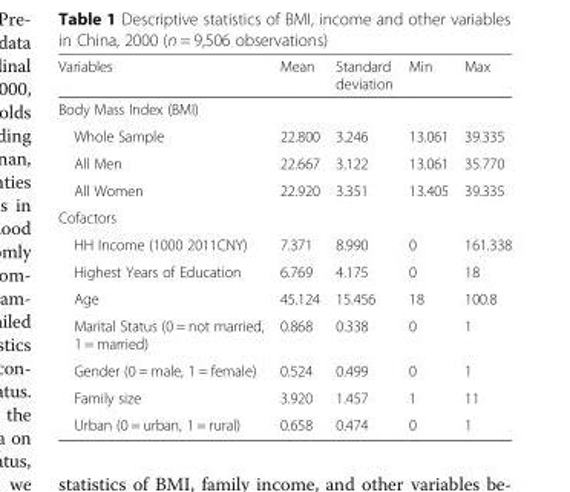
<table><thead><tr><td>Variables</td><td>Mean</td><td>Standard deviation</td><td>Min</td><td>Max</td></tr></thead><tbody><tr><td colspan="5">Body Mass Index (BMI)</td></tr><tr><td>Whole Sample</td><td>22.800</td><td>3.246</td><td>13.061</td><td>39.335</td></tr><tr><td>All Men</td><td>22.667</td><td>3.122</td><td>13.061</td><td>35.770</td></tr><tr><td>All Women</td><td>22.920</td><td>3.351</td><td>13.405</td><td>39.335</td></tr><tr><td colspan="5">Cofactors</td></tr><tr><td>HH Income (1000 2011CNY)</td><td>7.371</td><td>8.990</td><td>0</td><td>161.338</td></tr><tr><td>Highest Years of Education</td><td>6.769</td><td>4.175</td><td>0</td><td>18</td></tr><tr><td>Age</td><td>45.124</td><td>15.456</td><td>18</td><td>100.8</td></tr><tr><td>Marital Status (0 = not married, 1 = married)</td><td>0.868</td><td>0.338</td><td>0</td><td>1</td></tr><tr><td>Gender (0 = male, 1 = female)</td><td>0.524</td><td>0.499</td><td>0</td><td>1</td></tr><tr><td>Family size</td><td>3.920</td><td>1.457</td><td>1</td><td>11</td></tr><tr><td>Urban (0 = urban, 1 = rural)</td><td>0.658</td><td>0.474</td><td>0</td><td>1</td></tr></tbody></table>